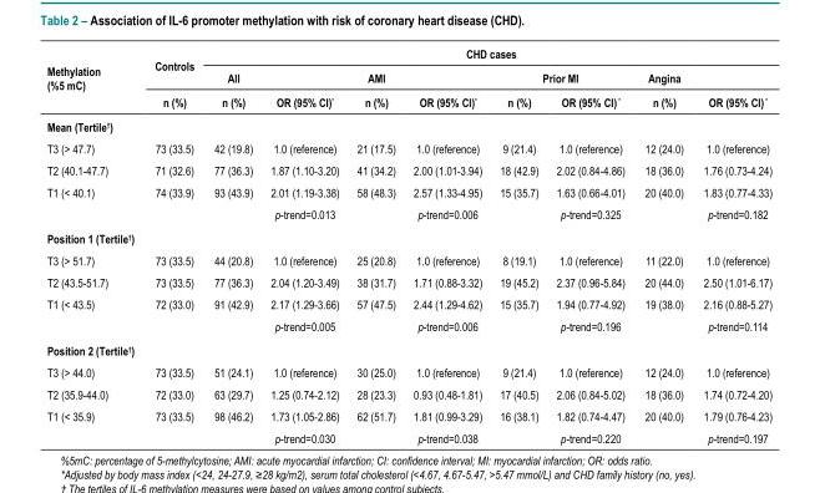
<table><thead><tr><td rowspan="3">Methylation (%5 mC)</td><td rowspan="3">Controls n (%)</td><td colspan="8">CHD cases</td></tr><tr><td rowspan="2">All n (%)</td><td colspan="3">AMI</td><td colspan="2">Prior MI</td><td colspan="2">Angina</td></tr><tr><td>OR (95% CI)*</td><td>n (%)</td><td>OR (95% CI)*</td><td>n (%)</td><td>OR (95% CI) *</td><td>n (%)</td><td>OR (95% CI) *</td></tr></thead><tbody><tr><td colspan="10">Mean (Tertile†)</td></tr><tr><td>T3 (&gt; 47.7)</td><td>73 (33.5)</td><td>42 (19.8)</td><td>1.0 (reference)</td><td>21 (17.5)</td><td>1.0 (reference)</td><td>9 (21.4)</td><td>1.0 (reference)</td><td>12 (24.0)</td><td>1.0 (reference)</td></tr><tr><td>T2 (40.1-47.7)</td><td>71 (32.6)</td><td>77 (36.3)</td><td>1.87 (1.10-3.20)</td><td>41 (34.2)</td><td>2.00 (1.01-3.94)</td><td>18 (42.9)</td><td>2.02 (0.84-4.86)</td><td>18 (36.0)</td><td>1.76 (0.73-4.24)</td></tr><tr><td rowspan="2">T1 (&lt; 40.1)</td><td>74 (33.9)</td><td>93 (43.9)</td><td>2.01 (1.19-3.38)</td><td>58 (48.3)</td><td>2.57 (1.33-4.95)</td><td>15 (35.7)</td><td>1.63 (0.66-4.01)</td><td>20 (40.0)</td><td>1.83 (0.77-4.33)</td></tr><tr><td></td><td></td><td>p-trend=0.013</td><td></td><td>p-trend=0.006</td><td></td><td>p-trend=0.325</td><td></td><td>p-trend=0.182</td></tr><tr><td colspan="10">Position 1 (Tertile†)</td></tr><tr><td>T3 (&gt; 51.7)</td><td>73 (33.5)</td><td>44 (20.8)</td><td>1.0 (reference)</td><td>25 (20.8)</td><td>1.0 (reference)</td><td>8 (19.1)</td><td>1.0 (reference)</td><td>11 (22.0)</td><td>1.0 (reference)</td></tr><tr><td>T2 (43.5-51.7)</td><td>73 (33.5)</td><td>77 (36.3)</td><td>2.04 (1.20-3.49)</td><td>38 (31.7)</td><td>1.71 (0.88-3.32)</td><td>19 (45.2)</td><td>2.37 (0.96-5.84)</td><td>20 (44.0)</td><td>2.50 (1.01-6.17)</td></tr><tr><td rowspan="2">T1 (&lt; 43.5)</td><td>72 (33.0)</td><td>91 (42.9)</td><td>2.17 (1.29-3.66)</td><td>57 (47.5)</td><td>2.44 (1.29-4.62)</td><td>15 (35.7)</td><td>1.94 (0.77-4.92)</td><td>19 (38.0)</td><td>2.16 (0.88-5.27)</td></tr><tr><td></td><td></td><td>p-trend=0.005</td><td></td><td>p-trend=0.006</td><td></td><td>p-trend=0.196</td><td></td><td>p-trend=0.114</td></tr><tr><td colspan="10">Position 2 (Tertile†)</td></tr><tr><td>T3 (&gt; 44.0)</td><td>73 (33.5)</td><td>51 (24.1)</td><td>1.0 (reference)</td><td>30 (25.0)</td><td>1.0 (reference)</td><td>9 (21.4)</td><td>1.0 (reference)</td><td>12 (24.0)</td><td>1.0 (reference)</td></tr><tr><td>T2 (35.9-44.0)</td><td>72 (33.0)</td><td>63 (29.7)</td><td>1.25 (0.74-2.12)</td><td>28 (23.3)</td><td>0.93 (0.48-1.81)</td><td>17 (40.5)</td><td>2.06 (0.84-5.02)</td><td>18 (36.0)</td><td>1.74 (0.72-4.20)</td></tr><tr><td rowspan="2">T1 (&lt; 35.9)</td><td>73 (33.5)</td><td>98 (46.2)</td><td>1.73 (1.05-2.86)</td><td>62 (51.7)</td><td>1.81 (0.99-3.29)</td><td>16 (38.1)</td><td>1.82 (0.74-4.47)</td><td>20 (40.0)</td><td>1.79 (0.76-4.23)</td></tr><tr><td></td><td></td><td>p-trend=0.030</td><td></td><td>p-trend=0.038</td><td></td><td>p-trend=0.220</td><td></td><td>p-trend=0.197</td></tr></tbody></table>